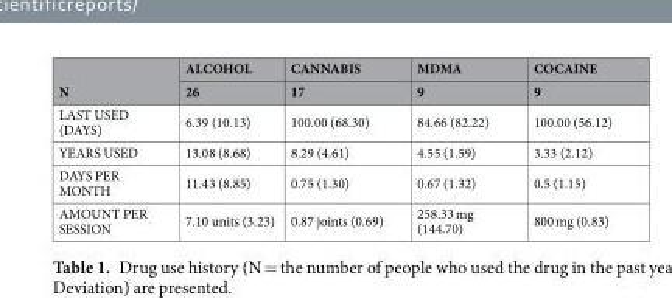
<table><thead><tr><td rowspan="2">N</td><td rowspan="2">ALCOHOL 26</td><td rowspan="2">CANNABIS 17</td><td rowspan="2">MDMA 9</td><td rowspan="2">COCAINE 9</td></tr><tr></tr></thead><tbody><tr><td>LAST USED (DAYS)</td><td>6.39 (10.13)</td><td>100.00 (68.30)</td><td>84.66 (82.22)</td><td>100.00 (56.12)</td></tr><tr><td>YEARS USED</td><td>13.08 (8.68)</td><td>8.29 (4.61)</td><td>4.55 (1.59)</td><td>3.33 (2.12)</td></tr><tr><td>DAYS PER MONTH</td><td>11.43 (8.85)</td><td>0.75 (1.30)</td><td>0.67 (1.32)</td><td>0.5 (1.15)</td></tr><tr><td>AMOUNT PER SESSION</td><td>7.10 units (3.23)</td><td>0.87 joints (0.69)</td><td>258.33 mg (144.70)</td><td>800 mg (0.83)</td></tr></tbody></table>